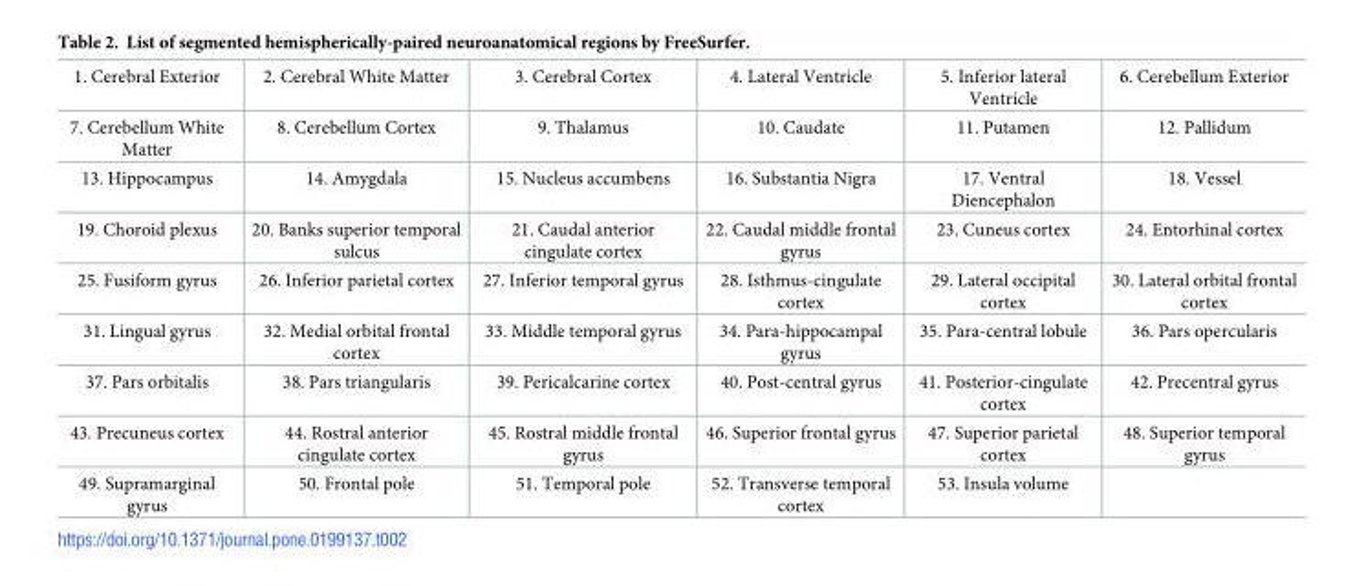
<table><tbody><tr><td>1. Cerebral Exterior</td><td>2. Cerebral White Matter</td><td>3. Cerebral Cortex</td><td>4. Lateral Ventricle</td><td>5. Inferior lateral Ventricle</td><td>6. Cerebellum Exterior</td></tr><tr><td>7. Cerebellum White Matter</td><td>8. Cerebellum Cortex</td><td>9. Thalamus</td><td>10. Caudate</td><td>11. Putamen</td><td>12. Pallidum</td></tr><tr><td>13. Hippocampus</td><td>14. Amygdala</td><td>15. Nucleus accumbens</td><td>16. Substantia Nigra</td><td>17. Ventral Diencephalon</td><td>18. Vessel</td></tr><tr><td>19. Choroid plexus</td><td>20. Banks superior temporal sulcus</td><td>21. Caudal anterior cingulate cortex</td><td>22. Caudal middle frontal gyrus</td><td>23. Cuneus cortex</td><td>24. Entorhinal cortex</td></tr><tr><td>25. Fusiform gyrus</td><td>26. Inferior parietal cortex</td><td>27. Inferior temporal gyrus</td><td>28. Isthmus-cingulate cortex</td><td>29. Lateral occipital cortex</td><td>30. Lateral orbital frontal cortex</td></tr><tr><td>31. Lingual gyrus</td><td>32. Medial orbital frontal cortex</td><td>33. Middle temporal gyrus</td><td>34. Para-hippocampal gyrus</td><td>35. Para-central lobule</td><td>36. Pars opercularis</td></tr><tr><td>37. Pars orbitalis</td><td>38. Pars triangularis</td><td>39. Pericalcarine cortex</td><td>40. Post-central gyrus</td><td>41. Posterior-cingulate cortex</td><td>42. Precentral gyrus</td></tr><tr><td>43. Precuneus cortex</td><td>44. Rostral anterior cingulate cortex</td><td>45. Rostral middle frontal gyrus</td><td>46. Superior frontal gyrus</td><td>47. Superior parietal cortex</td><td>48. Superior temporal gyrus</td></tr><tr><td>49. Supramarginal gyrus</td><td>50. Frontal pole</td><td>51. Temporal pole</td><td>52. Transverse temporal cortex</td><td>53. Insula volume</td><td></td></tr></tbody></table>